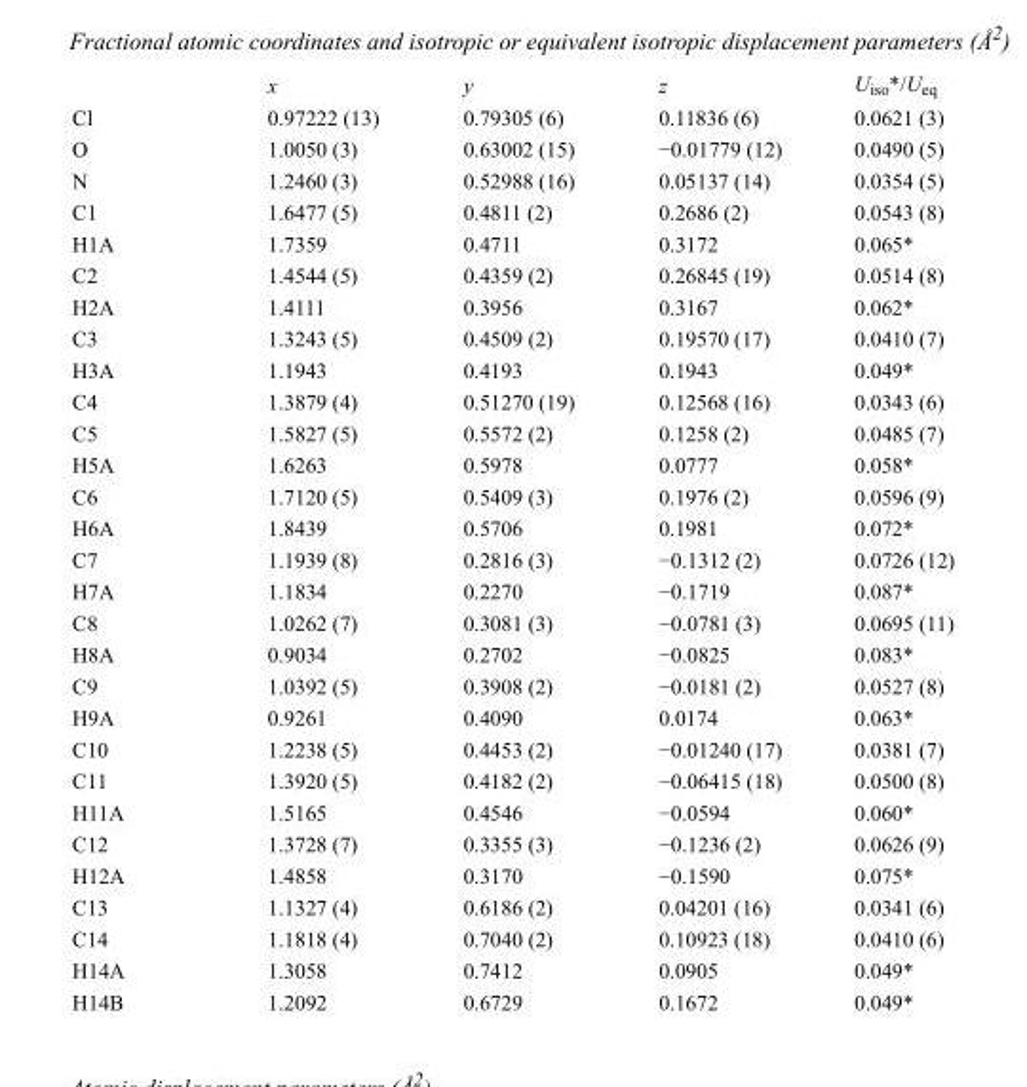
<table><thead><tr><td></td><td>x</td><td>y</td><td>z</td><td>U<sub>iso</sub>*/U<sub>eq</sub></td></tr></thead><tbody><tr><td>Cl</td><td>0.97222 (13)</td><td>0.79305 (6)</td><td>0.11836 (6)</td><td>0.0621 (3)</td></tr><tr><td>O</td><td>1.0050 (3)</td><td>0.63002 (15)</td><td>−0.01779 (12)</td><td>0.0490 (5)</td></tr><tr><td>N</td><td>1.2460 (3)</td><td>0.52988 (16)</td><td>0.05137 (14)</td><td>0.0354 (5)</td></tr><tr><td>C1</td><td>1.6477 (5)</td><td>0.4811 (2)</td><td>0.2686 (2)</td><td>0.0543 (8)</td></tr><tr><td>H1A</td><td>1.7359</td><td>0.4711</td><td>0.3172</td><td>0.065*</td></tr><tr><td>C2</td><td>1.4544 (5)</td><td>0.4359 (2)</td><td>0.26845 (19)</td><td>0.0514 (8)</td></tr><tr><td>H2A</td><td>1.4111</td><td>0.3956</td><td>0.3167</td><td>0.062*</td></tr><tr><td>C3</td><td>1.3243 (5)</td><td>0.4509 (2)</td><td>0.19570 (17)</td><td>0.0410 (7)</td></tr><tr><td>H3A</td><td>1.1943</td><td>0.4193</td><td>0.1943</td><td>0.049*</td></tr><tr><td>C4</td><td>1.3879 (4)</td><td>0.51270 (19)</td><td>0.12568 (16)</td><td>0.0343 (6)</td></tr><tr><td>C5</td><td>1.5827 (5)</td><td>0.5572 (2)</td><td>0.1258 (2)</td><td>0.0485 (7)</td></tr><tr><td>H5A</td><td>1.6263</td><td>0.5978</td><td>0.0777</td><td>0.058*</td></tr><tr><td>C6</td><td>1.7120 (5)</td><td>0.5409 (3)</td><td>0.1976 (2)</td><td>0.0596 (9)</td></tr><tr><td>H6A</td><td>1.8439</td><td>0.5706</td><td>0.1981</td><td>0.072*</td></tr><tr><td>C7</td><td>1.1939 (8)</td><td>0.2816 (3)</td><td>−0.1312 (2)</td><td>0.0726 (12)</td></tr><tr><td>H7A</td><td>1.1834</td><td>0.2270</td><td>−0.1719</td><td>0.087*</td></tr><tr><td>C8</td><td>1.0262 (7)</td><td>0.3081 (3)</td><td>−0.0781 (3)</td><td>0.0695 (11)</td></tr><tr><td>H8A</td><td>0.9034</td><td>0.2702</td><td>−0.0825</td><td>0.083*</td></tr><tr><td>C9</td><td>1.0392 (5)</td><td>0.3908 (2)</td><td>−0.0181 (2)</td><td>0.0527 (8)</td></tr><tr><td>H9A</td><td>0.9261</td><td>0.4090</td><td>0.0174</td><td>0.063*</td></tr><tr><td>C10</td><td>1.2238 (5)</td><td>0.4453 (2)</td><td>−0.01240 (17)</td><td>0.0381 (7)</td></tr><tr><td>C11</td><td>1.3920 (5)</td><td>0.4182 (2)</td><td>−0.06415 (18)</td><td>0.0500 (8)</td></tr><tr><td>H11A</td><td>1.5165</td><td>0.4546</td><td>−0.0594</td><td>0.060*</td></tr><tr><td>C12</td><td>1.3728 (7)</td><td>0.3355 (3)</td><td>−0.1236 (2)</td><td>0.0626 (9)</td></tr><tr><td>H12A</td><td>1.4858</td><td>0.3170</td><td>−0.1590</td><td>0.075*</td></tr><tr><td>C13</td><td>1.1327 (4)</td><td>0.6186 (2)</td><td>0.04201 (16)</td><td>0.0341 (6)</td></tr><tr><td>C14</td><td>1.1818 (4)</td><td>0.7040 (2)</td><td>0.10923 (18)</td><td>0.0410 (6)</td></tr><tr><td>H14A</td><td>1.3058</td><td>0.7412</td><td>0.0905</td><td>0.049*</td></tr><tr><td>H14B</td><td>1.2092</td><td>0.6729</td><td>0.1672</td><td>0.049*</td></tr></tbody></table>